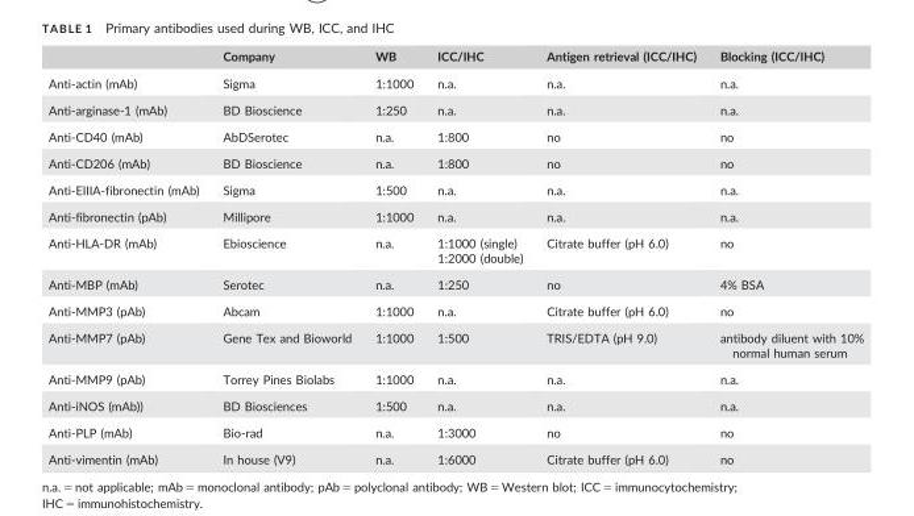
<table><thead><tr><td></td><td>Company</td><td>WB</td><td>ICC/IHC</td><td>Antigen retrieval (ICC/IHC)</td><td>Blocking (ICC/IHC)</td></tr></thead><tbody><tr><td>Anti-actin (mAb)</td><td>Sigma</td><td>1:1000</td><td>n.a.</td><td>n.a.</td><td>n.a.</td></tr><tr><td>Anti-arginase-1 (mAb)</td><td>BD Bioscience</td><td>1:250</td><td>n.a.</td><td>n.a.</td><td>n.a.</td></tr><tr><td>Anti-CD40 (mAb)</td><td>AbDSerotec</td><td>n.a.</td><td>1:800</td><td>no</td><td>no</td></tr><tr><td>Anti-CD206 (mAb)</td><td>BD Bioscience</td><td>n.a.</td><td>1:800</td><td>no</td><td>no</td></tr><tr><td>Anti-EIIIA-fibronectin (mAb)</td><td>Sigma</td><td>1:500</td><td>n.a.</td><td>n.a.</td><td>n.a.</td></tr><tr><td>Anti-fibronectin (pAb)</td><td>Millipore</td><td>1:1000</td><td>n.a.</td><td>n.a.</td><td>n.a.</td></tr><tr><td>Anti-HLA-DR (mAb)</td><td>Ebioscience</td><td>n.a.</td><td>1:1000 (single) 1:2000 (double)</td><td>Citrate buffer (pH 6.0)</td><td>no</td></tr><tr><td>Anti-MBP (mAb)</td><td>Serotec</td><td>n.a.</td><td>1:250</td><td>no</td><td>4% BSA</td></tr><tr><td>Anti-MMP3 (pAb)</td><td>Abcam</td><td>1:1000</td><td>n.a.</td><td>Citrate buffer (pH 6.0)</td><td>no</td></tr><tr><td>Anti-MMP7 (pAb)</td><td>Gene Tex and Bioworld</td><td>1:1000</td><td>1:500</td><td>TRIS/EDTA (pH 9.0)</td><td>antibody diluent with 10% normal human serum</td></tr><tr><td>Anti-MMP9 (pAb)</td><td>Torrey Pines Biolabs</td><td>1:1000</td><td>n.a.</td><td>n.a.</td><td>n.a.</td></tr><tr><td>Anti-iNOS (mAb))</td><td>BD Biosciences</td><td>1:500</td><td>n.a.</td><td>n.a.</td><td>n.a.</td></tr><tr><td>Anti-PLP (mAb)</td><td>Bio-rad</td><td>n.a.</td><td>1:3000</td><td>no</td><td>no</td></tr><tr><td>Anti-vimentin (mAb)</td><td>In house (V9)</td><td>n.a.</td><td>1:6000</td><td>Citrate buffer (pH 6.0)</td><td>no</td></tr></tbody></table>